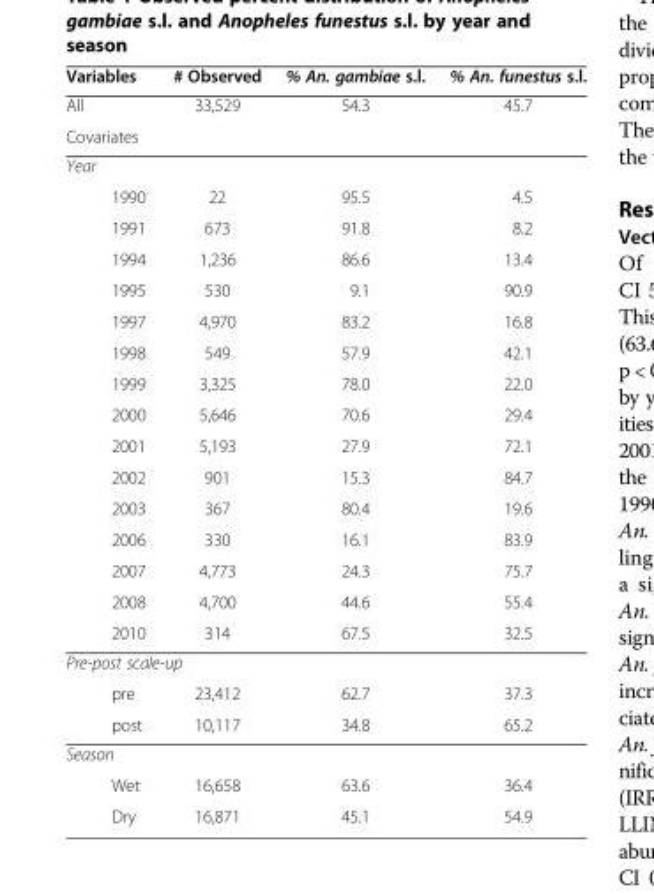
<table><thead><tr><td colspan="2">Variables</td><td rowspan="2"># Observed 33,529</td><td rowspan="2">% An. gambiae s.l. 54.3</td><td rowspan="2">% An. funestus s.l. 45.7</td></tr><tr><td>All</td><td></td></tr></thead><tbody><tr><td colspan="5">Covariates</td></tr><tr><td colspan="5">Year</td></tr><tr><td></td><td>1990</td><td>22</td><td>95.5</td><td>4.5</td></tr><tr><td></td><td>1991</td><td>673</td><td>91.8</td><td>8.2</td></tr><tr><td></td><td>1994</td><td>1,236</td><td>86.6</td><td>13.4</td></tr><tr><td></td><td>1995</td><td>530</td><td>9.1</td><td>90.9</td></tr><tr><td></td><td>1997</td><td>4,970</td><td>83.2</td><td>16.8</td></tr><tr><td></td><td>1998</td><td>549</td><td>57.9</td><td>42.1</td></tr><tr><td></td><td>1999</td><td>3,325</td><td>78.0</td><td>22.0</td></tr><tr><td></td><td>2000</td><td>5,646</td><td>70.6</td><td>29.4</td></tr><tr><td></td><td>2001</td><td>5,193</td><td>27.9</td><td>72.1</td></tr><tr><td></td><td>2002</td><td>901</td><td>15.3</td><td>84.7</td></tr><tr><td></td><td>2003</td><td>367</td><td>80.4</td><td>19.6</td></tr><tr><td></td><td>2006</td><td>330</td><td>16.1</td><td>83.9</td></tr><tr><td></td><td>2007</td><td>4,773</td><td>24.3</td><td>75.7</td></tr><tr><td></td><td>2008</td><td>4,700</td><td>44.6</td><td>55.4</td></tr><tr><td></td><td>2010</td><td>314</td><td>67.5</td><td>32.5</td></tr><tr><td colspan="5">Pre-post scale-up</td></tr><tr><td></td><td>pre</td><td>23,412</td><td>62.7</td><td>37.3</td></tr><tr><td></td><td>post</td><td>10,117</td><td>34.8</td><td>65.2</td></tr><tr><td colspan="5">Season</td></tr><tr><td></td><td>Wet</td><td>16,658</td><td>63.6</td><td>36.4</td></tr><tr><td></td><td>Dry</td><td>16,871</td><td>45.1</td><td>54.9</td></tr></tbody></table>